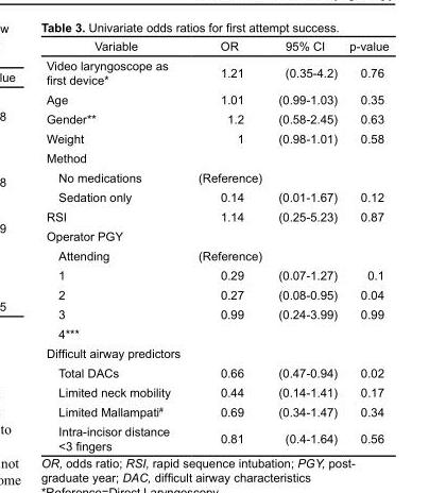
<table><thead><tr><td>Variable</td><td>OR</td><td>95% CI</td><td>p-value</td></tr></thead><tbody><tr><td>Video laryngoscope as first device*</td><td>1.21</td><td>(0.35-4.2)</td><td>0.76</td></tr><tr><td>Age</td><td>1.01</td><td>(0.99-1.03)</td><td>0.35</td></tr><tr><td>Gender**</td><td>1.2</td><td>(0.58-2.45)</td><td>0.63</td></tr><tr><td>Weight</td><td>1</td><td>(0.98-1.01)</td><td>0.58</td></tr><tr><td colspan="4">Method</td></tr><tr><td>No medications</td><td>(Reference)</td><td></td><td></td></tr><tr><td>Sedation only</td><td>0.14</td><td>(0.01-1.67)</td><td>0.12</td></tr><tr><td>RSI</td><td>1.14</td><td>(0.25-5.23)</td><td>0.87</td></tr><tr><td colspan="4">Operator PGY</td></tr><tr><td>Attending</td><td>(Reference)</td><td></td><td></td></tr><tr><td>1</td><td>0.29</td><td>(0.07-1.27)</td><td>0.1</td></tr><tr><td>2</td><td>0.27</td><td>(0.08-0.95)</td><td>0.04</td></tr><tr><td>3</td><td>0.99</td><td>(0.24-3.99)</td><td>0.99</td></tr><tr><td colspan="4">4***</td></tr><tr><td colspan="4">Difficult airway predictors</td></tr><tr><td>Total DACs</td><td>0.66</td><td>(0.47-0.94)</td><td>0.02</td></tr><tr><td>Limited neck mobility</td><td>0.44</td><td>(0.14-1.41)</td><td>0.17</td></tr><tr><td>Limited Mallampati#</td><td>0.69</td><td>(0.34-1.47)</td><td>0.34</td></tr><tr><td>Intra-incisor distance &lt;3 fingers</td><td>0.81</td><td>(0.4-1.64)</td><td>0.56</td></tr></tbody></table>